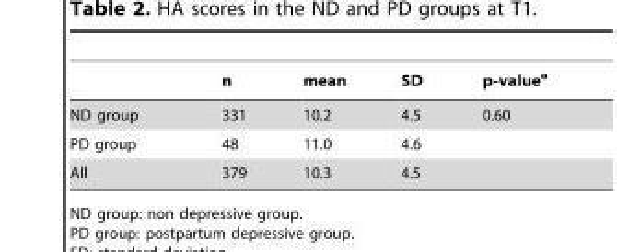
<table><thead><tr><td></td><td>n</td><td>mean</td><td>SD</td><td>p-value<sup>a</sup></td></tr></thead><tbody><tr><td>ND group</td><td>331</td><td>10.2</td><td>4.5</td><td>0.60</td></tr><tr><td>PD group</td><td>48</td><td>11.0</td><td>4.6</td><td></td></tr><tr><td>All</td><td>379</td><td>10.3</td><td>4.5</td><td></td></tr></tbody></table>